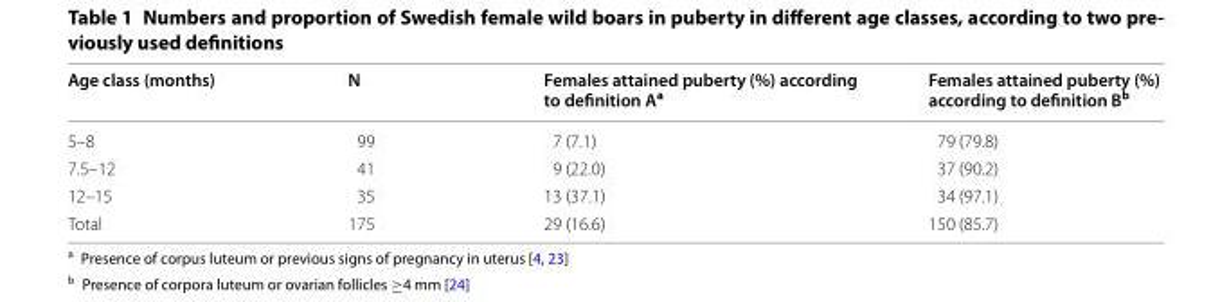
<table><thead><tr><td>Age class (months)</td><td>N</td><td>Females attained puberty (%) according to definition A<sup>a</sup></td><td>Females attained puberty (%) according to definition B<sup>b</sup></td></tr></thead><tbody><tr><td>5–8</td><td>99</td><td>7 (7.1)</td><td>79 (79.8)</td></tr><tr><td>7.5–12</td><td>41</td><td>9 (22.0)</td><td>37 (90.2)</td></tr><tr><td>12–15</td><td>35</td><td>13 (37.1)</td><td>34 (97.1)</td></tr><tr><td>Total</td><td>175</td><td>29 (16.6)</td><td>150 (85.7)</td></tr></tbody></table>